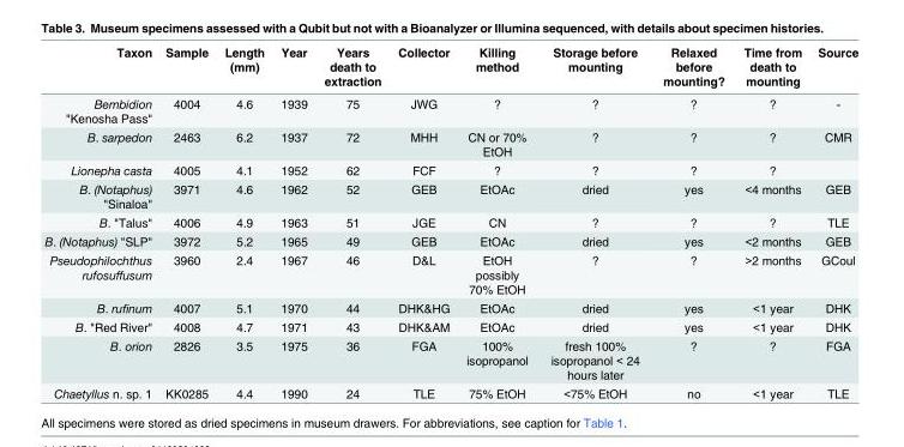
<table><thead><tr><td>Taxon</td><td>Sample</td><td>Length (mm)</td><td>Year</td><td>Years death to extraction</td><td>Collector</td><td>Killing method</td><td>Storage before mounting</td><td>Relaxed before mounting?</td><td>Time from death to mounting</td><td>Source</td></tr></thead><tbody><tr><td>Bembidion &quot;Kenosha Pass&quot;</td><td>4004</td><td>4.6</td><td>1939</td><td>75</td><td>JWG</td><td>?</td><td>?</td><td>?</td><td>?</td><td>-</td></tr><tr><td>B. sarpedon</td><td>2463</td><td>6.2</td><td>1937</td><td>72</td><td>MHH</td><td>CN or 70% EtOH</td><td>?</td><td>?</td><td>?</td><td>CMR</td></tr><tr><td>Lionepha casta</td><td>4005</td><td>4.1</td><td>1952</td><td>62</td><td>FCF</td><td>?</td><td>?</td><td>?</td><td>?</td><td></td></tr><tr><td>B. (Notaphus) &quot;Sinaloa&quot;</td><td>3971</td><td>4.6</td><td>1962</td><td>52</td><td>GEB</td><td>EtOAc</td><td>dried</td><td>yes</td><td>&lt;4 months</td><td>GEB</td></tr><tr><td>B. &quot;Talus&quot;</td><td>4006</td><td>4.9</td><td>1963</td><td>51</td><td>JGE</td><td>CN</td><td>?</td><td>?</td><td>?</td><td>TLE</td></tr><tr><td>B. (Notaphus) &quot;SLP&quot;</td><td>3972</td><td>5.2</td><td>1965</td><td>49</td><td>GEB</td><td>EtOAc</td><td>dried</td><td>yes</td><td>&lt;2 months</td><td>GEB</td></tr><tr><td>Pseudophilochthus rufosuffusum</td><td>3960</td><td>2.4</td><td>1967</td><td>46</td><td>D&amp;L</td><td>EtOH possibly 70% EtOH</td><td>?</td><td>?</td><td>&gt;2 months</td><td>GCoul</td></tr><tr><td>B. rufinum</td><td>4007</td><td>5.1</td><td>1970</td><td>44</td><td>DHK&amp;HG</td><td>EtOAc</td><td>dried</td><td>yes</td><td>&lt;1 year</td><td>DHK</td></tr><tr><td>B. &quot;Red River&quot;</td><td>4008</td><td>4.7</td><td>1971</td><td>43</td><td>DHK&amp;AM</td><td>EtOAc</td><td>dried</td><td>yes</td><td>&lt;1 year</td><td>DHK</td></tr><tr><td>B. orion</td><td>2826</td><td>3.5</td><td>1975</td><td>36</td><td>FGA</td><td>100% isopropanol</td><td>fresh 100% isopropanol &lt; 24 hours later</td><td>?</td><td>?</td><td>FGA</td></tr><tr><td>Chaetyllus n. sp. 1</td><td>KK0285</td><td>4.4</td><td>1990</td><td>24</td><td>TLE</td><td>75% EtOH</td><td>&lt;75% EtOH</td><td>no</td><td>&lt;1 year</td><td>TLE</td></tr></tbody></table>